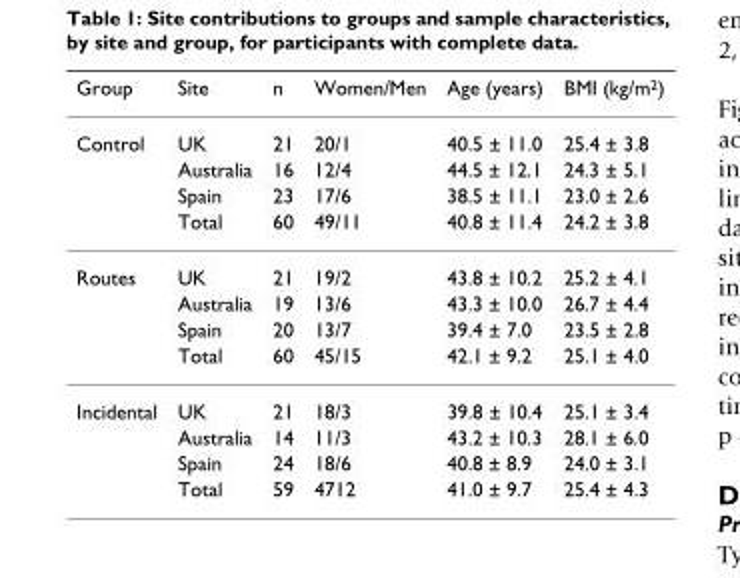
<table><thead><tr><td>Group</td><td>Site</td><td>n</td><td>Women/Men</td><td>Age (years)</td><td>BMI (kg/m<sup>2</sup>)</td></tr></thead><tbody><tr><td rowspan="4">Control</td><td>UK</td><td>21</td><td>20/1</td><td>40.5 ± 11.0</td><td>25.4 ± 3.8</td></tr><tr><td>Australia</td><td>16</td><td>12/4</td><td>44.5 ± 12.1</td><td>24.3 ± 5.1</td></tr><tr><td>Spain</td><td>23</td><td>17/6</td><td>38.5 ± 11.1</td><td>23.0 ± 2.6</td></tr><tr><td>Total</td><td>60</td><td>49/11</td><td>40.8 ± 11.4</td><td>24.2 ± 3.8</td></tr><tr><td rowspan="4">Routes</td><td>UK</td><td>21</td><td>19/2</td><td>43.8 ± 10.2</td><td>25.2 ± 4.1</td></tr><tr><td>Australia</td><td>19</td><td>13/6</td><td>43.3 ± 10.0</td><td>26.7 ± 4.4</td></tr><tr><td>Spain</td><td>20</td><td>13/7</td><td>39.4 ± 7.0</td><td>23.5 ± 2.8</td></tr><tr><td>Total</td><td>60</td><td>45/15</td><td>42.1 ± 9.2</td><td>25.1 ± 4.0</td></tr><tr><td rowspan="4">Incidental</td><td>UK</td><td>21</td><td>18/3</td><td>39.8 ± 10.4</td><td>25.1 ± 3.4</td></tr><tr><td>Australia</td><td>14</td><td>11/3</td><td>43.2 ± 10.3</td><td>28.1 ± 6.0</td></tr><tr><td>Spain</td><td>24</td><td>18/6</td><td>40.8 ± 8.9</td><td>24.0 ± 3.1</td></tr><tr><td>Total</td><td>59</td><td>4712</td><td>41.0 ± 9.7</td><td>25.4 ± 4.3</td></tr></tbody></table>